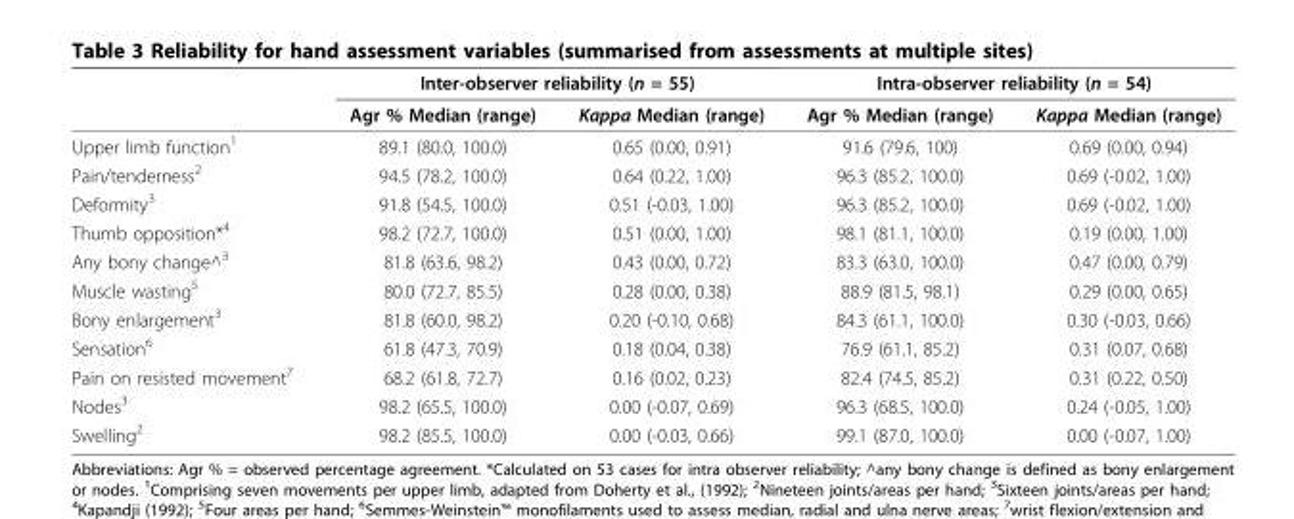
<table><thead><tr><td rowspan="2"></td><td colspan="2">Inter-observer reliability (n = 55)</td><td colspan="2">Intra-observer reliability (n = 54)</td></tr><tr><td>Agr % Median (range)</td><td>Kappa Median (range)</td><td>Agr % Median (range)</td><td>Kappa Median (range)</td></tr></thead><tbody><tr><td>Upper limb function<sup>1</sup></td><td>89.1 (80.0, 100.0)</td><td>0.65 (0.00, 0.91)</td><td>91.6 (79.6, 100)</td><td>0.69 (0.00, 0.94)</td></tr><tr><td>Pain/tenderness<sup>2</sup></td><td>94.5 (78.2, 100.0)</td><td>0.64 (0.22, 1.00)</td><td>96.3 (85.2, 100.0)</td><td>0.69 (-0.02, 1.00)</td></tr><tr><td>Deformity<sup>3</sup></td><td>91.8 (54.5, 100.0)</td><td>0.51 (-0.03, 1.00)</td><td>96.3 (85.2, 100.0)</td><td>0.69 (-0.02, 1.00)</td></tr><tr><td>Thumb opposition*<sup>4</sup></td><td>98.2 (72.7, 100.0)</td><td>0.51 (0.00, 1.00)</td><td>98.1 (81.1, 100.0)</td><td>0.19 (0.00, 1.00)</td></tr><tr><td>Any bony change^3</td><td>81.8 (63.6, 98.2)</td><td>0.43 (0.00, 0.72)</td><td>83.3 (63.0, 100.0)</td><td>0.47 (0.00, 0.79)</td></tr><tr><td>Muscle wasting<sup>5</sup></td><td>80.0 (72.7, 85.5)</td><td>0.28 (0.00, 0.38)</td><td>88.9 (81.5, 98.1)</td><td>0.29 (0.00, 0.65)</td></tr><tr><td>Bony enlargement<sup>3</sup></td><td>81.8 (60.0, 98.2)</td><td>0.20 (-0.10, 0.68)</td><td>84.3 (61.1, 100.0)</td><td>0.30 (-0.03, 0.66)</td></tr><tr><td>Sensation<sup>6</sup></td><td>61.8 (47.3, 70.9)</td><td>0.18 (0.04, 0.38)</td><td>76.9 (61.1, 85.2)</td><td>0.31 (0.07, 0.68)</td></tr><tr><td>Pain on resisted movement<sup>7</sup></td><td>68.2 (61.8, 72.7)</td><td>0.16 (0.02, 0.23)</td><td>82.4 (74.5, 85.2)</td><td>0.31 (0.22, 0.50)</td></tr><tr><td>Nodes<sup>3</sup></td><td>98.2 (65.5, 100.0)</td><td>0.00 (-0.07, 0.69)</td><td>96.3 (68.5, 100.0)</td><td>0.24 (-0.05, 1.00)</td></tr><tr><td>Swelling<sup>2</sup></td><td>98.2 (85.5, 100.0)</td><td>0.00 (-0.03, 0.66)</td><td>99.1 (87.0, 100.0)</td><td>0.00 (-0.07, 1.00)</td></tr></tbody></table>